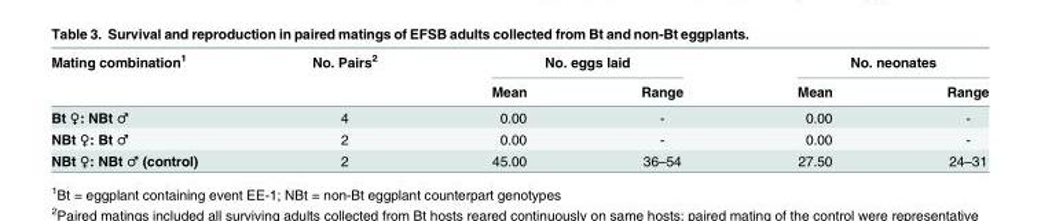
<table><thead><tr><td rowspan="2">Mating combination<sup>1</sup></td><td rowspan="2">No. Pairs<sup>2</sup></td><td colspan="2">No. eggs laid</td><td colspan="2">No. neonates</td></tr><tr><td>Mean</td><td>Range</td><td>Mean</td><td>Range</td></tr></thead><tbody><tr><td>Bt ♀: NBt ♂</td><td>4</td><td>0.00</td><td>-</td><td>0.00</td><td>-</td></tr><tr><td>NBt ♀: Bt ♂</td><td>2</td><td>0.00</td><td>-</td><td>0.00</td><td>-</td></tr><tr><td>NBt ♀: NBt ♂ (control)</td><td>2</td><td>45.00</td><td>36–54</td><td>27.50</td><td>24–31</td></tr></tbody></table>